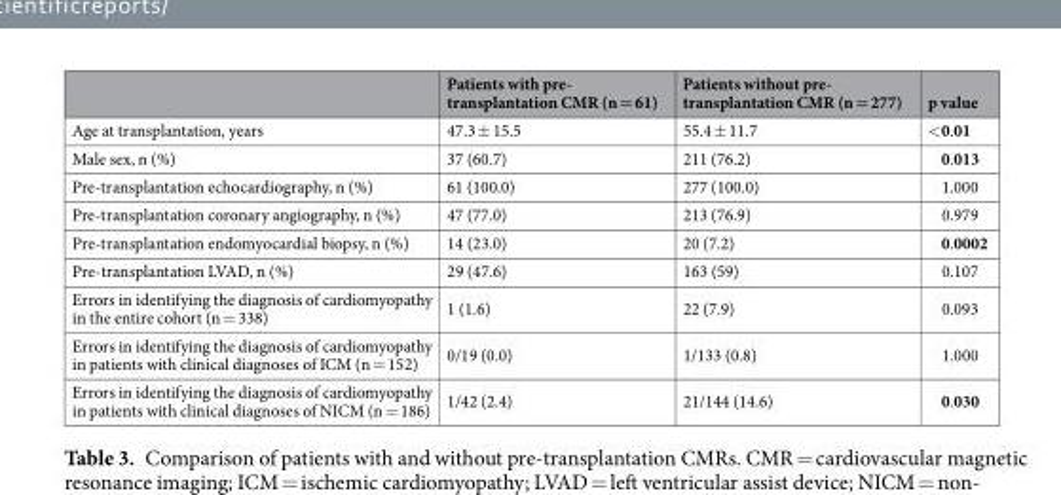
<table><thead><tr><td></td><td>Patients with pre- transplantation CMR (n = 61)</td><td>Patients without pre- transplantation CMR (n = 277)</td><td>p value</td></tr></thead><tbody><tr><td>Age at transplantation, years</td><td>47.3 ± 15.5</td><td>55.4 ± 11.7</td><td>&lt;0.01</td></tr><tr><td>Male sex, n (%)</td><td>37 (60.7)</td><td>211 (76.2)</td><td>0.013</td></tr><tr><td>Pre-transplantation echocardiography, n (%)</td><td>61 (100.0)</td><td>277 (100.0)</td><td>1.000</td></tr><tr><td>Pre-transplantation coronary angiography, n (%)</td><td>47 (77.0)</td><td>213 (76.9)</td><td>0.979</td></tr><tr><td>Pre-transplantation endomyocardial biopsy, n (%)</td><td>14 (23.0)</td><td>20 (7.2)</td><td>0.0002</td></tr><tr><td>Pre-transplantation LVAD, n (%)</td><td>29 (47.6)</td><td>163 (59)</td><td>0.107</td></tr><tr><td>Errors in identifying the diagnosis of cardiomyopathy in the entire cohort (n = 338)</td><td>1 (1.6)</td><td>22 (7.9)</td><td>0.093</td></tr><tr><td>Errors in identifying the diagnosis of cardiomyopathy in patients with clinical diagnoses of ICM (n = 152)</td><td>0/19 (0.0)</td><td>1/133 (0.8)</td><td>1.000</td></tr><tr><td>Errors in identifying the diagnosis of cardiomyopathy in patients with clinical diagnoses of NICM (n = 186)</td><td>1/42 (2.4)</td><td>21/144 (14.6)</td><td>0.030</td></tr></tbody></table>